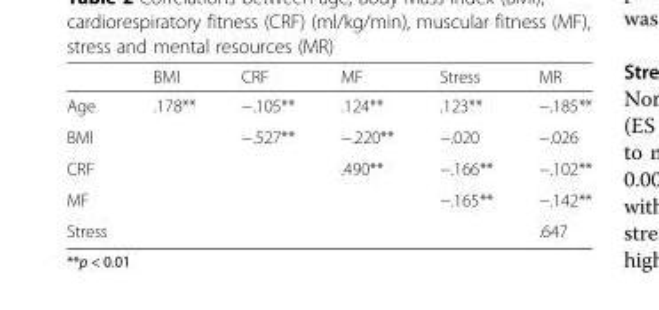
<table><thead><tr><td></td><td>BMI</td><td>CRF</td><td>MF</td><td>Stress</td><td>MR</td></tr></thead><tbody><tr><td>Age</td><td>.178**</td><td>−.105**</td><td>.124**</td><td>.123**</td><td>−.185**</td></tr><tr><td>BMI</td><td></td><td>−.527**</td><td>−.220**</td><td>−.020</td><td>−.026</td></tr><tr><td>CRF</td><td></td><td></td><td>.490**</td><td>−.166**</td><td>−.102**</td></tr><tr><td>MF</td><td></td><td></td><td></td><td>−.165**</td><td>−.142**</td></tr><tr><td>Stress</td><td></td><td></td><td></td><td></td><td>.647</td></tr></tbody></table>